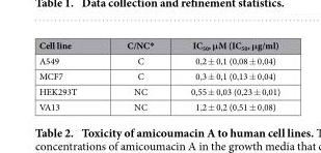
<table><thead><tr><td>Cell line</td><td>C/NC*</td><td>IC<sub>50</sub>, μM (IC<sub>50</sub>, μg/ml)</td></tr></thead><tbody><tr><td>A549</td><td>C</td><td>0,2 ± 0,1 (0,08 ± 0,04)</td></tr><tr><td>MCF7</td><td>C</td><td>0,3 ± 0,1 (0,13 ± 0,04)</td></tr><tr><td>HEK293T</td><td>NC</td><td>0,55 ± 0,03 (0,23 ± 0,01)</td></tr><tr><td>VA13</td><td>NC</td><td>1,2 ± 0,2 (0,51 ± 0,08)</td></tr></tbody></table>